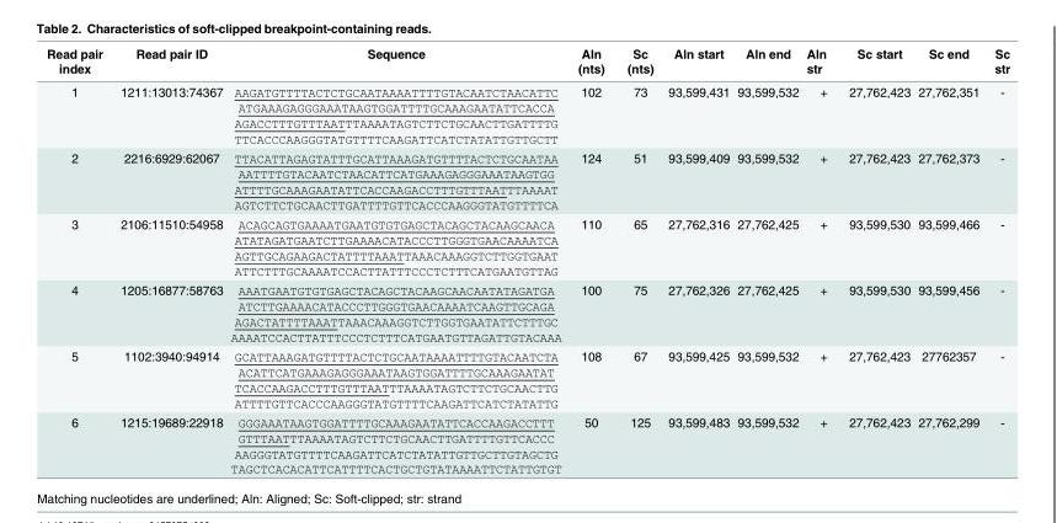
<table><thead><tr><td>Read pair index</td><td>Read pair ID</td><td>Sequence</td><td>Aln (nts)</td><td>Sc (nts)</td><td>Aln start</td><td>Aln end</td><td>Aln str</td><td>Sc start</td><td>Sc end</td><td>Sc str</td></tr></thead><tbody><tr><td>1</td><td>1211:13013:74367</td><td>AAGATGTTTTACTCTGCAATAAAATTTTGTACAATCTAACATTC ATGAAAGAGGGAAATAAGTGGATTTTGCAAAGAATATTCACCA AGACCTTTGTTTAATTTAAAATAGTCTTCTGCAACTTGATTTTG TTCACCCAAGGGTATGTTTTCAAGATTCATCTATATTGTTGCTT</td><td>102</td><td>73</td><td>93,599,431</td><td>93,599,532</td><td>+</td><td>27,762,423</td><td>27,762,351</td><td>-</td></tr><tr><td>2</td><td>2216:6929:62067</td><td>TTACATTAGAGTATTTGCATTAAAGATGTTTTACTCTGCAATAA AATTTTGTACAATCTAACATTCATGAAAGAGGGAAATAAGTGG ATTTTGCAAAGAATATTCACCAAGACCTTTGTTTAATTTAAAAT AGTCTTCTGCAACTTGATTTTGTTCACCCAAGGGTATGTTTTCA</td><td>124</td><td>51</td><td>93,599,409</td><td>93,599,532</td><td>+</td><td>27,762,423</td><td>27,762,373</td><td>-</td></tr><tr><td>3</td><td>2106:11510:54958</td><td>ACAGCAGTGAAAATGAATGTGTGAGCTACAGCTACAAGCAACA ATATAGATGAATCTTGAAAACATACCCTTGGGTGAACAAAATCA AGTTGCAGAAGACTATTTTAAATTAAACAAAGGTCTTGGTGAAT ATTCTTTGCAAAATCCACTTATTTCCCTCTTTCATGAATGTTAG</td><td>110</td><td>65</td><td>27,762,316</td><td>27,762,425</td><td>+</td><td>93,599,530</td><td>93,599,466</td><td>-</td></tr><tr><td>4</td><td>1205:16877:58763</td><td>AAATGAATGTGTGAGCTACAGCTACAAGCAACAATATAGATGA ATCTTGAAAACATACCCTTGGGTGAACAAAATCAAGTTGCAGA AGACTATTTTAAATTAAACAAAGGTCTTGGTGAATATTCTTTGC AAAATCCACTTATTTCCCTCTTTCATGAATGTTAGATTGTACAAA</td><td>100</td><td>75</td><td>27,762,326</td><td>27,762,425</td><td>+</td><td>93,599,530</td><td>93,599,456</td><td>-</td></tr><tr><td>5</td><td>1102:3940:94914</td><td>GCATTAAAGATGTTTTACTCTGCAATAAAATTTTGTACAATCTA ACATTCATGAAAGAGGGAAATAAGTGGATTTTGCAAAGAATAT TCACCAAGACCTTTGTTTAATTTAAAATAGTCTTCTGCAACTTG ATTTTGTTCACCCAAGGGTATGTTTTCAAGATTCATCTATATTG</td><td>108</td><td>67</td><td>93,599,425</td><td>93,599,532</td><td>+</td><td>27,762,423</td><td>27762357</td><td>-</td></tr><tr><td>6</td><td>1215:19689:22918</td><td>GGGAAATAAGTGGATTTTGCAAAGAATATTCACCAAGACCTTT GTTTAATTTAAAATAGTCTTCTGCAACTTGATTTTGTTCACCC AAGGGTATGTTTTCAAGATTCATCTATATTGTTGCTTGTAGCTG TAGCTCACACATTCATTTTCACTGCTGTATAAAATTCTATTGTGT</td><td>50</td><td>125</td><td>93,599,483</td><td>93,599,532</td><td>+</td><td>27,762,423</td><td>27,762,299</td><td>-</td></tr></tbody></table>